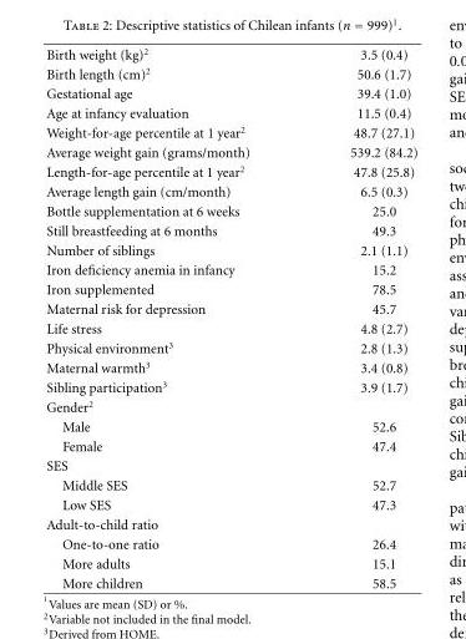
<table><tbody><tr><td>Birth weight (kg)<sup>2</sup></td><td>3.5 (0.4)</td></tr><tr><td>Birth length (cm)<sup>2</sup></td><td>50.6 (1.7)</td></tr><tr><td>Gestational age</td><td>39.4 (1.0)</td></tr><tr><td>Age at infancy evaluation</td><td>11.5 (0.4)</td></tr><tr><td>Weight-for-age percentile at 1 year<sup>2</sup></td><td>48.7 (27.1)</td></tr><tr><td>Average weight gain (grams/month)</td><td>539.2 (84.2)</td></tr><tr><td>Length-for-age percentile at 1 year<sup>2</sup></td><td>47.8 (25.8)</td></tr><tr><td>Average length gain (cm/month)</td><td>6.5 (0.3)</td></tr><tr><td>Bottle supplementation at 6 weeks</td><td>25.0</td></tr><tr><td>Still breastfeeding at 6 months</td><td>49.3</td></tr><tr><td>Number of siblings</td><td>2.1 (1.1)</td></tr><tr><td>Iron deficiency anemia in infancy</td><td>15.2</td></tr><tr><td>Iron supplemented</td><td>78.5</td></tr><tr><td>Maternal risk for depression</td><td>45.7</td></tr><tr><td>Life stress</td><td>4.8 (2.7)</td></tr><tr><td>Physical environment<sup>3</sup></td><td>2.8 (1.3)</td></tr><tr><td>Maternal warmth<sup>3</sup></td><td>3.4 (0.8)</td></tr><tr><td>Sibling participation<sup>3</sup></td><td>3.9 (1.7)</td></tr><tr><td colspan="2">Gender<sup>2</sup></td></tr><tr><td>Male</td><td>52.6</td></tr><tr><td>Female</td><td>47.4</td></tr><tr><td colspan="2">SES</td></tr><tr><td>Middle SES</td><td>52.7</td></tr><tr><td>Low SES</td><td>47.3</td></tr><tr><td colspan="2">Adult-to-child ratio</td></tr><tr><td>One-to-one ratio</td><td>26.4</td></tr><tr><td>More adults</td><td>15.1</td></tr><tr><td>More children</td><td>58.5</td></tr></tbody></table>